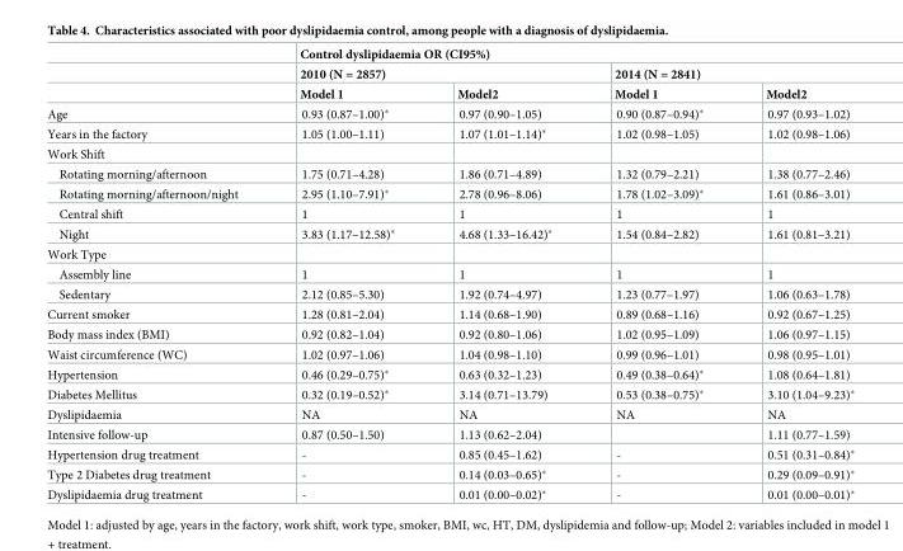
<table><thead><tr><td rowspan="3"></td><td colspan="4">Control dyslipidaemia OR (CI95%)</td></tr><tr><td colspan="2">2010 (N = 2857)</td><td colspan="2">2014 (N = 2841)</td></tr><tr><td>Model 1</td><td>Model2</td><td>Model 1</td><td>Model2</td></tr></thead><tbody><tr><td>Age</td><td>0.93 (0.87–1.00)*</td><td>0.97 (0.90–1.05)</td><td>0.90 (0.87–0.94)*</td><td>0.97 (0.93–1.02)</td></tr><tr><td>Years in the factory</td><td>1.05 (1.00–1.11)</td><td>1.07 (1.01–1.14)*</td><td>1.02 (0.98–1.05)</td><td>1.02 (0.98–1.06)</td></tr><tr><td colspan="5">Work Shift</td></tr><tr><td>Rotating morning/afternoon</td><td>1.75 (0.71–4.28)</td><td>1.86 (0.71–4.89)</td><td>1.32 (0.79–2.21)</td><td>1.38 (0.77–2.46)</td></tr><tr><td>Rotating morning/afternoon/night</td><td>2.95 (1.10–7.91)*</td><td>2.78 (0.96–8.06)</td><td>1.78 (1.02–3.09)*</td><td>1.61 (0.86–3.01)</td></tr><tr><td>Central shift</td><td>1</td><td>1</td><td>1</td><td>1</td></tr><tr><td>Night</td><td>3.83 (1.17–12.58)*</td><td>4.68 (1.33–16.42)*</td><td>1.54 (0.84–2.82)</td><td>1.61 (0.81–3.21)</td></tr><tr><td colspan="5">Work Type</td></tr><tr><td>Assembly line</td><td>1</td><td>1</td><td>1</td><td>1</td></tr><tr><td>Sedentary</td><td>2.12 (0.85–5.30)</td><td>1.92 (0.74–4.97)</td><td>1.23 (0.77–1.97)</td><td>1.06 (0.63–1.78)</td></tr><tr><td>Current smoker</td><td>1.28 (0.81–2.04)</td><td>1.14 (0.68–1.90)</td><td>0.89 (0.68–1.16)</td><td>0.92 (0.67–1.25)</td></tr><tr><td>Body mass index (BMI)</td><td>0.92 (0.82–1.04)</td><td>0.92 (0.80–1.06)</td><td>1.02 (0.95–1.09)</td><td>1.06 (0.97–1.15)</td></tr><tr><td>Waist circumference (WC)</td><td>1.02 (0.97–1.06)</td><td>1.04 (0.98–1.10)</td><td>0.99 (0.96–1.01)</td><td>0.98 (0.95–1.01)</td></tr><tr><td>Hypertension</td><td>0.46 (0.29–0.75)*</td><td>0.63 (0.32–1.23)</td><td>0.49 (0.38–0.64)*</td><td>1.08 (0.64–1.81)</td></tr><tr><td>Diabetes Mellitus</td><td>0.32 (0.19–0.52)*</td><td>3.14 (0.71–13.79)</td><td>0.53 (0.38–0.75)*</td><td>3.10 (1.04–9.23)*</td></tr><tr><td>Dyslipidaemia</td><td>NA</td><td>NA</td><td>NA</td><td>NA</td></tr><tr><td>Intensive follow-up</td><td>0.87 (0.50–1.50)</td><td>1.13 (0.62–2.04)</td><td></td><td>1.11 (0.77–1.59)</td></tr><tr><td>Hypertension drug treatment</td><td>-</td><td>0.85 (0.45–1.62)</td><td>-</td><td>0.51 (0.31–0.84)*</td></tr><tr><td>Type 2 Diabetes drug treatment</td><td>-</td><td>0.14 (0.03–0.65)*</td><td>-</td><td>0.29 (0.09–0.91)*</td></tr><tr><td>Dyslipidaemia drug treatment</td><td>-</td><td>0.01 (0.00–0.02)*</td><td>-</td><td>0.01 (0.00–0.01)*</td></tr></tbody></table>